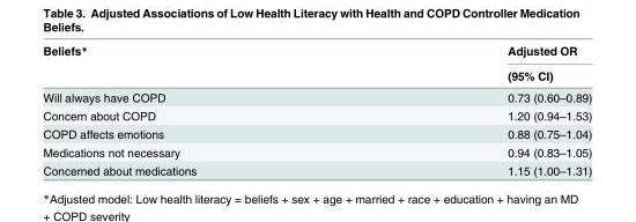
<table><thead><tr><td rowspan="2">Beliefs*</td><td rowspan="2">Adjusted OR (95% CI)</td></tr><tr></tr></thead><tbody><tr><td>Will always have COPD</td><td>0.73 (0.60–0.89)</td></tr><tr><td>Concern about COPD</td><td>1.20 (0.94–1.53)</td></tr><tr><td>COPD affects emotions</td><td>0.88 (0.75–1.04)</td></tr><tr><td>Medications not necessary</td><td>0.94 (0.83–1.05)</td></tr><tr><td>Concerned about medications</td><td>1.15 (1.00–1.31)</td></tr></tbody></table>